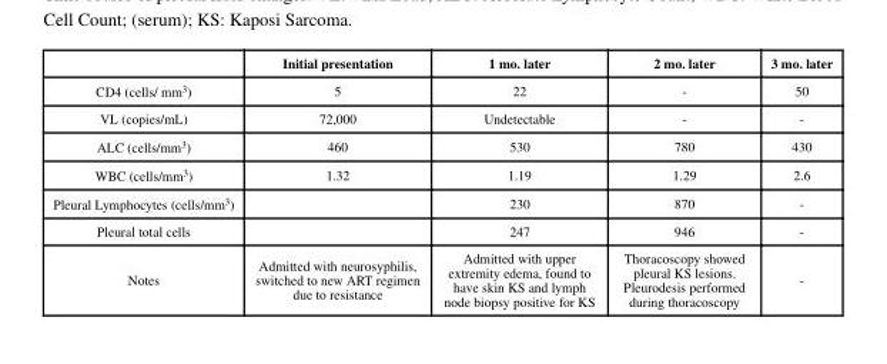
<table><thead><tr><td></td><td>Initial presentation</td><td>1 mo. later</td><td>2 mo. later</td><td>3 mo. later</td></tr></thead><tbody><tr><td>CD4 (cells/ mm<sup>3</sup>)</td><td>5</td><td>22</td><td>-</td><td>50</td></tr><tr><td>VL (copies/mL)</td><td>72,000</td><td>Undetectable</td><td>-</td><td>-</td></tr><tr><td>ALC (cells/mm<sup>3</sup>)</td><td>460</td><td>530</td><td>780</td><td>430</td></tr><tr><td>WBC (cells/mm<sup>3</sup>)</td><td>1.32</td><td>1.19</td><td>1.29</td><td>2.6</td></tr><tr><td>Pleural Lymphocytes (cells/mm<sup>3</sup>)</td><td></td><td>230</td><td>870</td><td>-</td></tr><tr><td>Pleural total cells</td><td></td><td>247</td><td>946</td><td>-</td></tr><tr><td>Notes</td><td>Admitted with neurosyphilis, switched to new ART regimen due to resistance</td><td>Admitted with upper extremity edema, found to have skin KS and lymph node biopsy positive for KS</td><td>Thoracoscopy showed pleural KS lesions. Pleurodesis performed during thoracoscopy</td><td>-</td></tr></tbody></table>